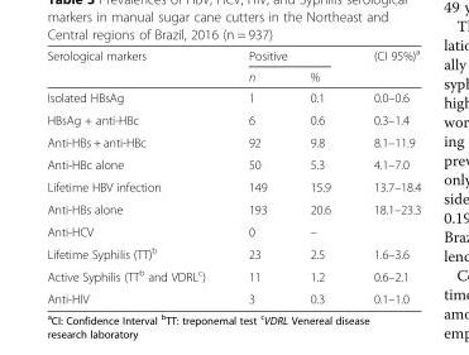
<table><thead><tr><td rowspan="2">Serological markers</td><td colspan="2">Positive</td><td rowspan="2">(CI 95%)<sup>a</sup></td></tr><tr><td>n</td><td>%</td></tr></thead><tbody><tr><td>Isolated HBsAg</td><td>1</td><td>0.1</td><td>0.0–0.6</td></tr><tr><td>HBsAg + anti-HBc</td><td>6</td><td>0.6</td><td>0.3–1.4</td></tr><tr><td>Anti-HBs + anti-HBc</td><td>92</td><td>9.8</td><td>8.1–11.9</td></tr><tr><td>Anti-HBc alone</td><td>50</td><td>5.3</td><td>4.1–7.0</td></tr><tr><td>Lifetime HBV infection</td><td>149</td><td>15.9</td><td>13.7–18.4</td></tr><tr><td>Anti-HBs alone</td><td>193</td><td>20.6</td><td>18.1–23.3</td></tr><tr><td>Anti-HCV</td><td>0</td><td>–</td><td></td></tr><tr><td>Lifetime Syphilis (TT)<sup>b</sup></td><td>23</td><td>2.5</td><td>1.6–3.6</td></tr><tr><td>Active Syphilis (TT<sup>b</sup> and VDRL<sup>c</sup>)</td><td>11</td><td>1.2</td><td>0.6–2.1</td></tr><tr><td>Anti-HIV</td><td>3</td><td>0.3</td><td>0.1–1.0</td></tr></tbody></table>